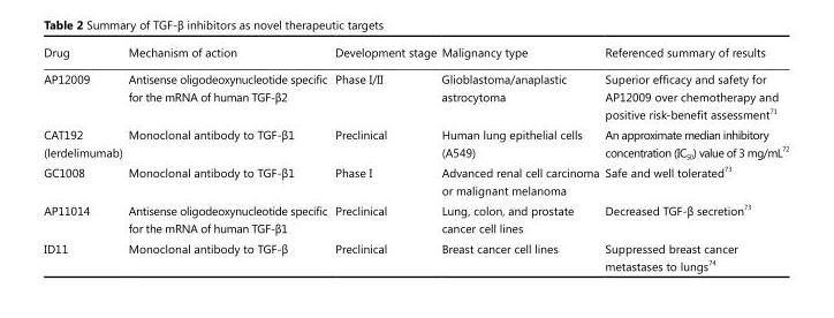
<table><thead><tr><td>Drug</td><td>Mechanism of action</td><td>Development stage</td><td>Malignancy type</td><td>Referenced summary of results</td></tr></thead><tbody><tr><td>AP12009</td><td>Antisense oligodeoxynucleotide specific for the mRNA of human TGF-β2</td><td>Phase I/II</td><td>Glioblastoma/anaplastic astrocytoma</td><td>Superior efficacy and safety for AP12009 over chemotherapy and positive risk-benefit assessment <sup>71</sup></td></tr><tr><td>CAT192 (lerdelimumab)</td><td>Monoclonal antibody to TGF-β1</td><td>Preclinical</td><td>Human lung epithelial cells (A549)</td><td>An approximate median inhibitory concentration (IC<sub>50</sub>) value of 3 mg/mL <sup>72</sup></td></tr><tr><td>GC1008</td><td>Monoclonal antibody to TGF-β1</td><td>Phase I</td><td>Advanced renal cell carcinoma or malignant melanoma</td><td>Safe and well tolerated <sup>73</sup></td></tr><tr><td>AP11014</td><td>Antisense oligodeoxynucleotide specific for the mRNA of human TGF-β1</td><td>Preclinical</td><td>Lung, colon, and prostate cancer cell lines</td><td>Decreased TGF-β secretion <sup>73</sup></td></tr><tr><td>ID11</td><td>Monoclonal antibody to TGF-β</td><td>Preclinical</td><td>Breast cancer cell lines</td><td>Suppressed breast cancer metastases to lungs <sup>74</sup></td></tr></tbody></table>